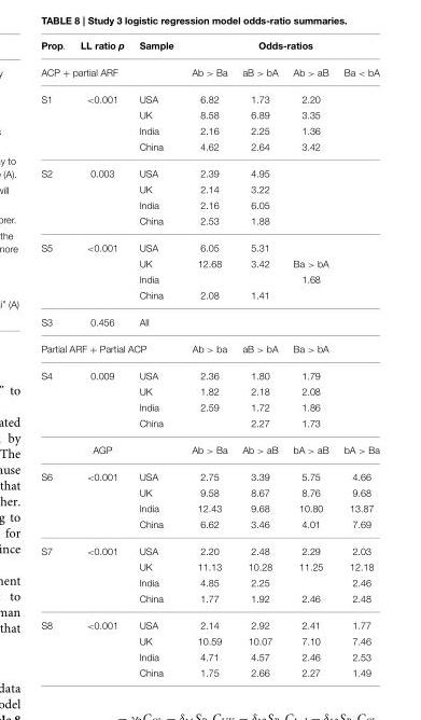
<table><thead><tr><td>Prop.</td><td>LL ratio p</td><td>Sample</td><td colspan="4">Odds-ratios</td></tr><tr><td colspan="3">ACP + partial ARF</td><td>Ab &gt; Ba</td><td>aB &gt; bA</td><td>Ab &gt; aB</td><td>Ba &lt; bA</td></tr></thead><tbody><tr><td rowspan="4">S1</td><td>&lt;0.001</td><td>USA</td><td>6.82</td><td>1.73</td><td>2.20</td><td></td></tr><tr><td></td><td>UK</td><td>8.58</td><td>6.89</td><td>3.35</td><td></td></tr><tr><td></td><td>India</td><td>2.16</td><td>2.25</td><td>1.36</td><td></td></tr><tr><td></td><td>China</td><td>4.62</td><td>2.64</td><td>3.42</td><td></td></tr><tr><td rowspan="4">S2</td><td>0.003</td><td>USA</td><td>2.39</td><td>4.95</td><td></td><td></td></tr><tr><td></td><td>UK</td><td>2.14</td><td>3.22</td><td></td><td></td></tr><tr><td></td><td>India</td><td>2.16</td><td>6.05</td><td></td><td></td></tr><tr><td></td><td>China</td><td>2.53</td><td>1.88</td><td></td><td></td></tr><tr><td rowspan="4">S5</td><td>&lt;0.001</td><td>USA</td><td>6.05</td><td>5.31</td><td></td><td></td></tr><tr><td></td><td>UK</td><td>12.68</td><td>3.42</td><td>Ba &gt; bA</td><td></td></tr><tr><td></td><td>India</td><td></td><td></td><td>1.68</td><td></td></tr><tr><td></td><td>China</td><td>2.08</td><td>1.41</td><td></td><td></td></tr><tr><td>S3</td><td>0.456</td><td>All</td><td></td><td></td><td></td><td></td></tr><tr><td colspan="3">Partial ARF + Partial ACP</td><td>Ab &gt; ba</td><td>aB &gt; bA</td><td>Ba &gt; bA</td><td></td></tr><tr><td rowspan="5">S4</td><td>0.009</td><td>USA</td><td>2.36</td><td>1.80</td><td>1.79</td><td></td></tr><tr><td></td><td>UK</td><td>1.82</td><td>2.18</td><td>2.08</td><td></td></tr><tr><td></td><td>India</td><td>2.59</td><td>1.72</td><td>1.86</td><td></td></tr><tr><td></td><td>China</td><td></td><td>2.27</td><td>1.73</td><td></td></tr><tr><td>AGP</td><td></td><td>Ab &gt; Ba</td><td>Ab &gt; aB</td><td>bA &gt; aB</td><td>bA &gt; Ba</td></tr><tr><td rowspan="4">S6</td><td>&lt;0.001</td><td>USA</td><td>2.75</td><td>3.39</td><td>5.75</td><td>4.66</td></tr><tr><td></td><td>UK</td><td>9.58</td><td>8.67</td><td>8.76</td><td>9.68</td></tr><tr><td></td><td>India</td><td>12.43</td><td>9.68</td><td>10.80</td><td>13.87</td></tr><tr><td></td><td>China</td><td>6.62</td><td>3.46</td><td>4.01</td><td>7.69</td></tr><tr><td rowspan="4">S7</td><td>&lt;0.001</td><td>USA</td><td>2.20</td><td>2.48</td><td>2.29</td><td>2.03</td></tr><tr><td></td><td>UK</td><td>11.13</td><td>10.28</td><td>11.25</td><td>12.18</td></tr><tr><td></td><td>India</td><td>4.85</td><td>2.25</td><td></td><td>2.46</td></tr><tr><td></td><td>China</td><td>1.77</td><td>1.92</td><td>2.46</td><td>2.48</td></tr><tr><td rowspan="4">S8</td><td>&lt;0.001</td><td>USA</td><td>2.14</td><td>2.92</td><td>2.41</td><td>1.77</td></tr><tr><td></td><td>UK</td><td>10.59</td><td>10.07</td><td>7.10</td><td>7.46</td></tr><tr><td></td><td>India</td><td>4.71</td><td>4.57</td><td>2.46</td><td>2.53</td></tr><tr><td></td><td>China</td><td>1.75</td><td>2.66</td><td>2.27</td><td>1.49</td></tr></tbody></table>